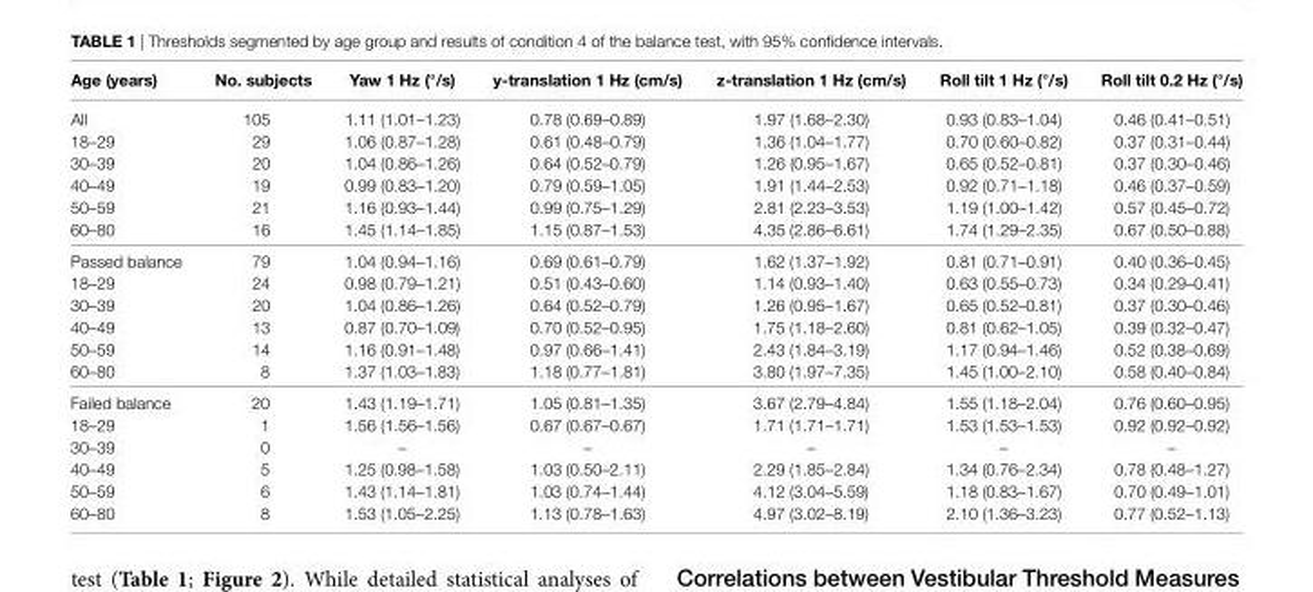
<table><thead><tr><td>age (years)</td><td>no. subjects</td><td>Yaw 1 hz (°/s)</td><td>y-translation 1 hz (cm/s)</td><td>z-translation 1 hz (cm/s)</td><td>roll tilt 1 hz (°/s)</td><td>roll tilt 0.2 hz (°/s)</td></tr></thead><tbody><tr><td>All</td><td>105</td><td>1.11 (1.01–1.23)</td><td>0.78 (0.69–0.89)</td><td>1.97 (1.68–2.30)</td><td>0.93 (0.83–1.04)</td><td>0.46 (0.41–0.51)</td></tr><tr><td>18–29</td><td>29</td><td>1.06 (0.87–1.28)</td><td>0.61 (0.48–0.79)</td><td>1.36 (1.04–1.77)</td><td>0.70 (0.60–0.82)</td><td>0.37 (0.31–0.44)</td></tr><tr><td>30–39</td><td>20</td><td>1.04 (0.86–1.26)</td><td>0.64 (0.52–0.79)</td><td>1.26 (0.95–1.67)</td><td>0.65 (0.52–0.81)</td><td>0.37 (0.30–0.46)</td></tr><tr><td>40–49</td><td>19</td><td>0.99 (0.83–1.20)</td><td>0.79 (0.59–1.05)</td><td>1.91 (1.44–2.53)</td><td>0.92 (0.71–1.18)</td><td>0.46 (0.37–0.59)</td></tr><tr><td>50–59</td><td>21</td><td>1.16 (0.93–1.44)</td><td>0.99 (0.75–1.29)</td><td>2.81 (2.23–3.53)</td><td>1.19 (1.00–1.42)</td><td>0.57 (0.45–0.72)</td></tr><tr><td>60–80</td><td>16</td><td>1.45 (1.14–1.85)</td><td>1.15 (0.87–1.53)</td><td>4.35 (2.86–6.61)</td><td>1.74 (1.29–2.35)</td><td>0.67 (0.50–0.88)</td></tr><tr><td>Passed balance</td><td>79</td><td>1.04 (0.94–1.16)</td><td>0.69 (0.61–0.79)</td><td>1.62 (1.37–1.92)</td><td>0.81 (0.71–0.91)</td><td>0.40 (0.36–0.45)</td></tr><tr><td>18–29</td><td>24</td><td>0.98 (0.79–1.21)</td><td>0.51 (0.43–0.60)</td><td>1.14 (0.93–1.40)</td><td>0.63 (0.55–0.73)</td><td>0.34 (0.29–0.41)</td></tr><tr><td>30–39</td><td>20</td><td>1.04 (0.86–1.26)</td><td>0.64 (0.52–0.79)</td><td>1.26 (0.95–1.67)</td><td>0.65 (0.52–0.81)</td><td>0.37 (0.30–0.46)</td></tr><tr><td>40–49</td><td>13</td><td>0.87 (0.70–1.09)</td><td>0.70 (0.52–0.95)</td><td>1.75 (1.18–2.60)</td><td>0.81 (0.62–1.05)</td><td>0.39 (0.32–0.47)</td></tr><tr><td>50–59</td><td>14</td><td>1.16 (0.91–1.48)</td><td>0.97 (0.66–1.41)</td><td>2.43 (1.84–3.19)</td><td>1.17 (0.94–1.46)</td><td>0.52 (0.38–0.69)</td></tr><tr><td>60–80</td><td>8</td><td>1.37 (1.03–1.83)</td><td>1.18 (0.77–1.81)</td><td>3.80 (1.97–7.35)</td><td>1.45 (1.00–2.10)</td><td>0.58 (0.40–0.84)</td></tr><tr><td>Failed balance</td><td>20</td><td>1.43 (1.19–1.71)</td><td>1.05 (0.81–1.35)</td><td>3.67 (2.79–4.84)</td><td>1.55 (1.18–2.04)</td><td>0.76 (0.60–0.95)</td></tr><tr><td>18–29</td><td>1</td><td>1.56 (1.56–1.56)</td><td>0.67 (0.67–0.67)</td><td>1.71 (1.71–1.71)</td><td>1.53 (1.53–1.53)</td><td>0.92 (0.92–0.92)</td></tr><tr><td>30–39</td><td>0</td><td>–</td><td>–</td><td>–</td><td>–</td><td>–</td></tr><tr><td>40–49</td><td>5</td><td>1.25 (0.98–1.58)</td><td>1.03 (0.50–2.11)</td><td>2.29 (1.85–2.84)</td><td>1.34 (0.76–2.34)</td><td>0.78 (0.48–1.27)</td></tr><tr><td>50–59</td><td>6</td><td>1.43 (1.14–1.81)</td><td>1.03 (0.74–1.44)</td><td>4.12 (3.04–5.59)</td><td>1.18 (0.83–1.67)</td><td>0.70 (0.49–1.01)</td></tr><tr><td>60–80</td><td>8</td><td>1.53 (1.05–2.25)</td><td>1.13 (0.78–1.63)</td><td>4.97 (3.02–8.19)</td><td>2.10 (1.36–3.23)</td><td>0.77 (0.52–1.13)</td></tr></tbody></table>